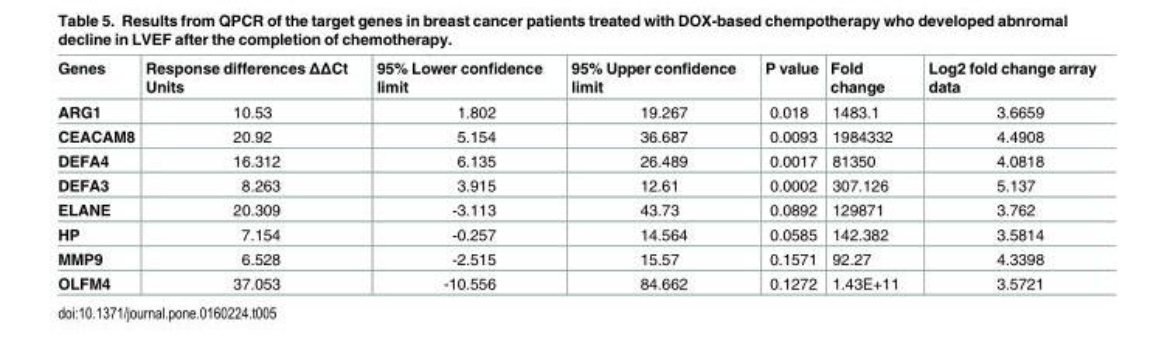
<table><thead><tr><td>Genes</td><td>Response differences ΔΔCt Units</td><td>95% Lower confidence limit</td><td>95% Upper confidence limit</td><td>P value</td><td>Fold change</td><td>Log2 fold change array data</td></tr></thead><tbody><tr><td>ARG1</td><td>10.53</td><td>1.802</td><td>19.267</td><td>0.018</td><td>1483.1</td><td>3.6659</td></tr><tr><td>CEACAM8</td><td>20.92</td><td>5.154</td><td>36.687</td><td>0.0093</td><td>1984332</td><td>4.4908</td></tr><tr><td>DEFA4</td><td>16.312</td><td>6.135</td><td>26.489</td><td>0.0017</td><td>81350</td><td>4.0818</td></tr><tr><td>DEFA3</td><td>8.263</td><td>3.915</td><td>12.61</td><td>0.0002</td><td>307.126</td><td>5.137</td></tr><tr><td>ELANE</td><td>20.309</td><td>-3.113</td><td>43.73</td><td>0.0892</td><td>129871</td><td>3.762</td></tr><tr><td>HP</td><td>7.154</td><td>-0.257</td><td>14.564</td><td>0.0585</td><td>142.382</td><td>3.5814</td></tr><tr><td>MMP9</td><td>6.528</td><td>-2.515</td><td>15.57</td><td>0.1571</td><td>92.27</td><td>4.3398</td></tr><tr><td>OLFM4</td><td>37.053</td><td>-10.556</td><td>84.662</td><td>0.1272</td><td>1.43E+11</td><td>3.5721</td></tr></tbody></table>